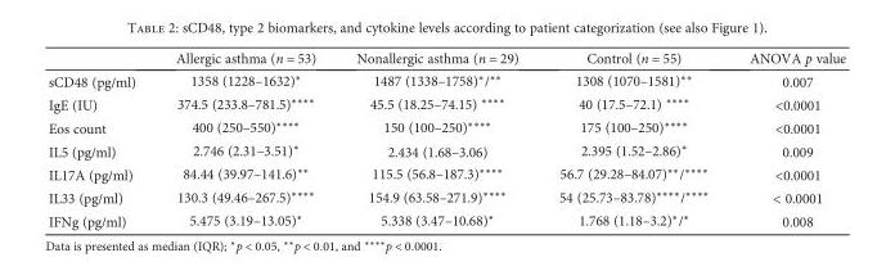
<table><thead><tr><td></td><td>Allergic asthma (n = 53)</td><td>Nonallergic asthma (n = 29)</td><td>Control (n = 55)</td><td>ANOVA p value</td></tr></thead><tbody><tr><td>sCD48 (pg/ml)</td><td>1358 (1228–1632)∗</td><td>1487 (1338–1758)∗/∗∗</td><td>1308 (1070–1581)∗∗</td><td>0.007</td></tr><tr><td>IgE (IU)</td><td>374.5 (233.8–781.5)∗∗∗∗</td><td>45.5 (18.25–74.15) ∗∗∗∗</td><td>40 (17.5–72.1) ∗∗∗∗</td><td>&lt;0.0001</td></tr><tr><td>Eos count</td><td>400 (250–550)∗∗∗∗</td><td>150 (100–250)∗∗∗∗</td><td>175 (100–250)∗∗∗∗</td><td>&lt;0.0001</td></tr><tr><td>IL5 (pg/ml)</td><td>2.746 (2.31–3.51)∗</td><td>2.434 (1.68–3.06)</td><td>2.395 (1.52–2.86)∗</td><td>0.009</td></tr><tr><td>IL17A (pg/ml)</td><td>84.44 (39.97–141.6)∗∗</td><td>115.5 (56.8–187.3)∗∗∗∗</td><td>56.7 (29.28–84.07)∗∗/∗∗∗∗</td><td>&lt;0.0001</td></tr><tr><td>IL33 (pg/ml)</td><td>130.3 (49.46–267.5)∗∗∗∗</td><td>154.9 (63.58–271.9)∗∗∗∗</td><td>54 (25.73–83.78)∗∗∗∗/∗∗∗∗</td><td>&lt; 0.0001</td></tr><tr><td>IFNg (pg/ml)</td><td>5.475 (3.19–13.05)∗</td><td>5.338 (3.47–10.68)∗</td><td>1.768 (1.18–3.2)∗/∗</td><td>0.008</td></tr></tbody></table>